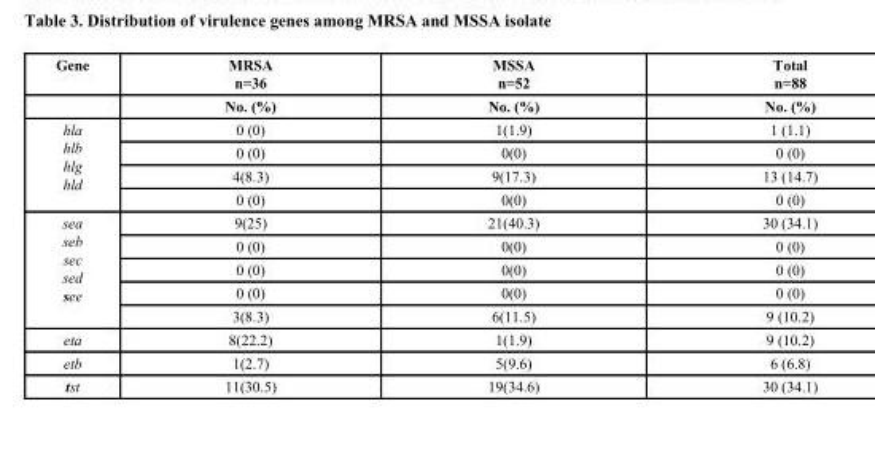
<table><thead><tr><td rowspan="2">Gene</td><td rowspan="2">MRSA n=36 No. (%)</td><td rowspan="2">MSSA n=52 No. (%)</td><td rowspan="2">Total n=88 No. (%)</td></tr><tr></tr></thead><tbody><tr><td rowspan="4">hla hlb hlg hld</td><td>0 (0)</td><td>1(1.9)</td><td>1 (1.1)</td></tr><tr><td>0 (0)</td><td>0(0)</td><td>0 (0)</td></tr><tr><td>4(8.3)</td><td>9(17.3)</td><td>13 (14.7)</td></tr><tr><td>0 (0)</td><td>0(0)</td><td>0 (0)</td></tr><tr><td rowspan="5">sea seb sec sed see</td><td>9(25)</td><td>21(40.3)</td><td>30 (34.1)</td></tr><tr><td>0 (0)</td><td>0(0)</td><td>0 (0)</td></tr><tr><td>0 (0)</td><td>0(0)</td><td>0 (0)</td></tr><tr><td>0 (0)</td><td>0(0)</td><td>0 (0)</td></tr><tr><td>3(8.3)</td><td>6(11.5)</td><td>9 (10.2)</td></tr><tr><td>eta</td><td>8(22.2)</td><td>1(1.9)</td><td>9 (10.2)</td></tr><tr><td>etb</td><td>1(2.7)</td><td>5(9.6)</td><td>6 (6.8)</td></tr><tr><td>tst</td><td>11(30.5)</td><td>19(34.6)</td><td>30 (34.1)</td></tr></tbody></table>